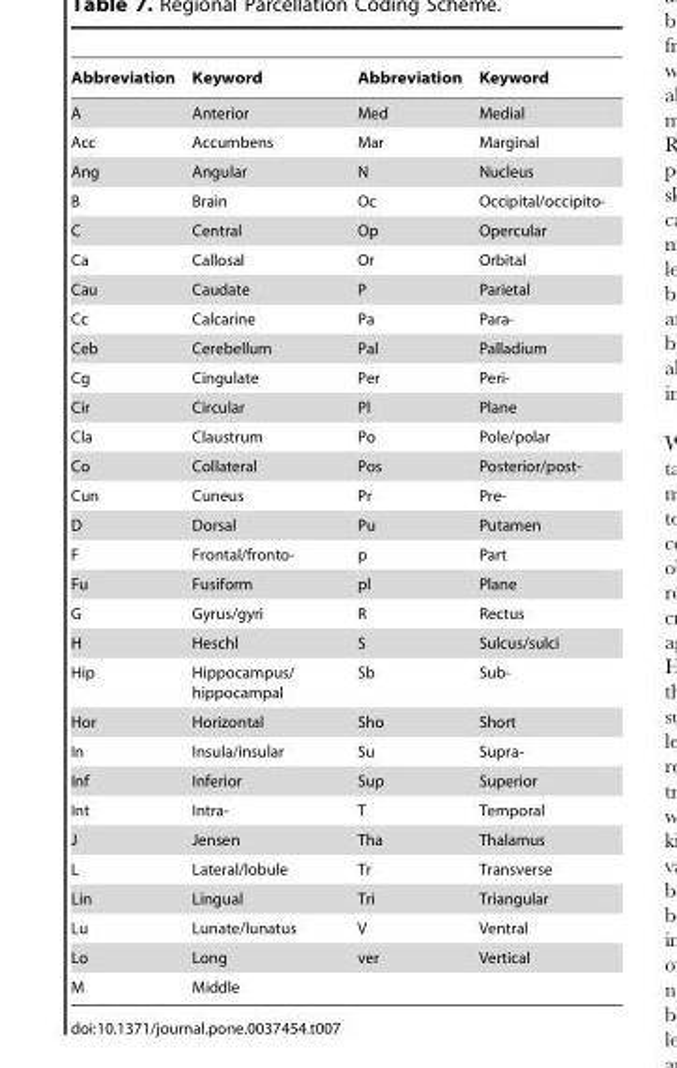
<table><thead><tr><td>Abbreviation</td><td>Keyword</td><td>Abbreviation</td><td>Keyword</td></tr></thead><tbody><tr><td>A</td><td>Anterior</td><td>Med</td><td>Medial</td></tr><tr><td>Acc</td><td>Accumbens</td><td>Mar</td><td>Marginal</td></tr><tr><td>Ang</td><td>Angular</td><td>N</td><td>Nucleus</td></tr><tr><td>B</td><td>Brain</td><td>Oc</td><td>Occipital/occipito-</td></tr><tr><td>C</td><td>Central</td><td>Op</td><td>Opercular</td></tr><tr><td>Ca</td><td>Callosal</td><td>Or</td><td>Orbital</td></tr><tr><td>Cau</td><td>Caudate</td><td>P</td><td>Parietal</td></tr><tr><td>Cc</td><td>Calcarine</td><td>Pa</td><td>Para-</td></tr><tr><td>Ceb</td><td>Cerebellum</td><td>Pal</td><td>Palladium</td></tr><tr><td>Cg</td><td>Cingulate</td><td>Per</td><td>Peri-</td></tr><tr><td>Cir</td><td>Circular</td><td>Pl</td><td>Plane</td></tr><tr><td>Cla</td><td>Claustrum</td><td>Po</td><td>Pole/polar</td></tr><tr><td>Co</td><td>Collateral</td><td>Pos</td><td>Posterior/post-</td></tr><tr><td>Cun</td><td>Cuneus</td><td>Pr</td><td>Pre-</td></tr><tr><td>D</td><td>Dorsal</td><td>Pu</td><td>Putamen</td></tr><tr><td>F</td><td>Frontal/fronto-</td><td>p</td><td>Part</td></tr><tr><td>Fu</td><td>Fusiform</td><td>pl</td><td>Plane</td></tr><tr><td>G</td><td>Gyrus/gyri</td><td>R</td><td>Rectus</td></tr><tr><td>H</td><td>Heschl</td><td>S</td><td>Sulcus/sulci</td></tr><tr><td>Hip</td><td>Hippocampus/ hippocampal</td><td>Sb</td><td>Sub-</td></tr><tr><td>Hor</td><td>Horizontal</td><td>Sho</td><td>Short</td></tr><tr><td>In</td><td>Insula/insular</td><td>Su</td><td>Supra-</td></tr><tr><td>Inf</td><td>Inferior</td><td>Sup</td><td>Superior</td></tr><tr><td>Int</td><td>Intra-</td><td>T</td><td>Temporal</td></tr><tr><td>J</td><td>Jensen</td><td>Tha</td><td>Thalamus</td></tr><tr><td>L</td><td>Lateral/lobule</td><td>Tr</td><td>Transverse</td></tr><tr><td>Lin</td><td>Lingual</td><td>Tri</td><td>Triangular</td></tr><tr><td>Lu</td><td>Lunate/lunatus</td><td>V</td><td>Ventral</td></tr><tr><td>Lo</td><td>Long</td><td>ver</td><td>Vertical</td></tr><tr><td>M</td><td>Middle</td><td></td><td></td></tr></tbody></table>